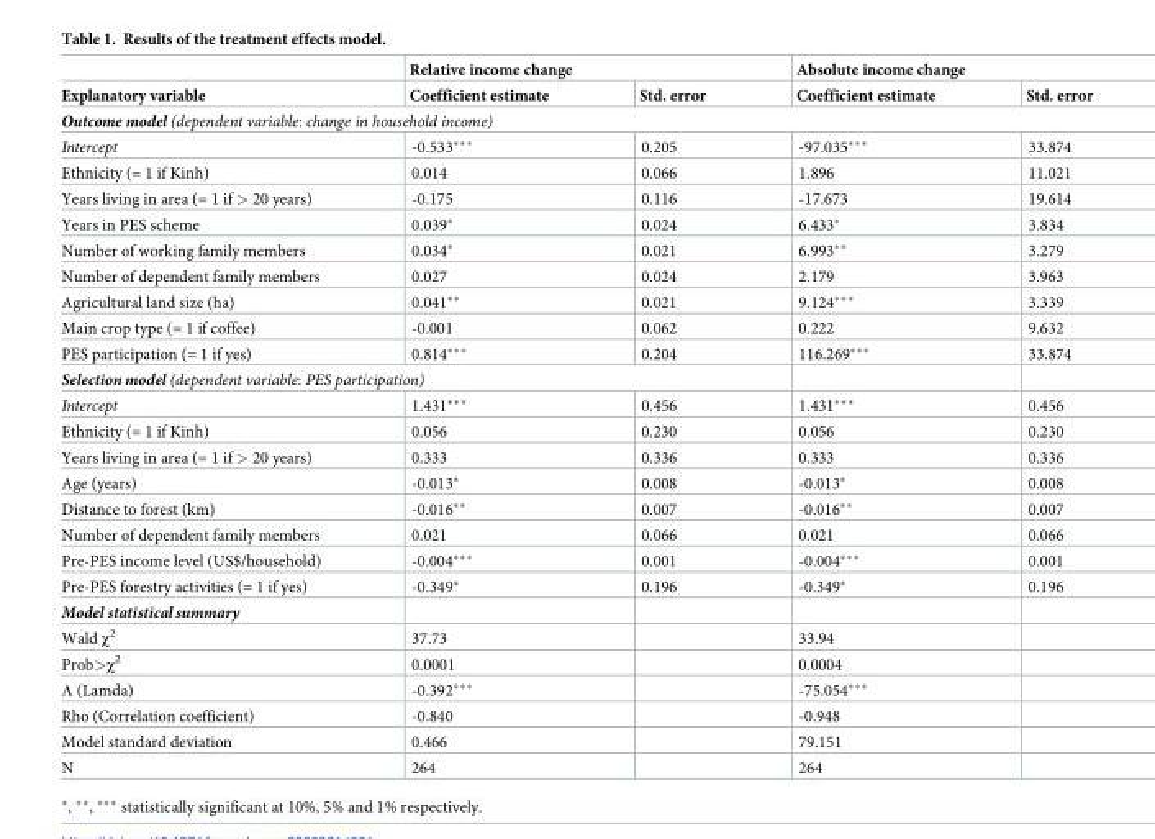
<table><thead><tr><td rowspan="2">Explanatory variable</td><td colspan="2">Relative income change</td><td colspan="2">Absolute income change</td></tr><tr><td>Coefficient estimate</td><td>Std. error</td><td>Coefficient estimate</td><td>Std. error</td></tr></thead><tbody><tr><td colspan="5">Outcome model (dependent variable: change in household income)</td></tr><tr><td>Intercept</td><td>-0.533***</td><td>0.205</td><td>-97.035***</td><td>33.874</td></tr><tr><td>Ethnicity (= 1 if Kinh)</td><td>0.014</td><td>0.066</td><td>1.896</td><td>11.021</td></tr><tr><td>Years living in area (= 1 if &gt; 20 years)</td><td>-0.175</td><td>0.116</td><td>-17.673</td><td>19.614</td></tr><tr><td>Years in PES scheme</td><td>0.039*</td><td>0.024</td><td>6.433*</td><td>3.834</td></tr><tr><td>Number of working family members</td><td>0.034*</td><td>0.021</td><td>6.993**</td><td>3.279</td></tr><tr><td>Number of dependent family members</td><td>0.027</td><td>0.024</td><td>2.179</td><td>3.963</td></tr><tr><td>Agricultural land size (ha)</td><td>0.041**</td><td>0.021</td><td>9.124***</td><td>3.339</td></tr><tr><td>Main crop type (= 1 if coffee)</td><td>-0.001</td><td>0.062</td><td>0.222</td><td>9.632</td></tr><tr><td>PES participation (= 1 if yes)</td><td>0.814***</td><td>0.204</td><td>116.269***</td><td>33.874</td></tr><tr><td colspan="5">Selection model (dependent variable: PES participation)</td></tr><tr><td>Intercept</td><td>1.431***</td><td>0.456</td><td>1.431***</td><td>0.456</td></tr><tr><td>Ethnicity (= 1 if Kinh)</td><td>0.056</td><td>0.230</td><td>0.056</td><td>0.230</td></tr><tr><td>Years living in area (= 1 if &gt; 20 years)</td><td>0.333</td><td>0.336</td><td>0.333</td><td>0.336</td></tr><tr><td>Age (years)</td><td>-0.013*</td><td>0.008</td><td>-0.013*</td><td>0.008</td></tr><tr><td>Distance to forest (km)</td><td>-0.016**</td><td>0.007</td><td>-0.016**</td><td>0.007</td></tr><tr><td>Number of dependent family members</td><td>0.021</td><td>0.066</td><td>0.021</td><td>0.066</td></tr><tr><td>Pre-PES income level (US$/household)</td><td>-0.004***</td><td>0.001</td><td>-0.004***</td><td>0.001</td></tr><tr><td>Pre-PES forestry activities (= 1 if yes)</td><td>-0.349*</td><td>0.196</td><td>-0.349*</td><td>0.196</td></tr><tr><td colspan="5">Model statistical summary</td></tr><tr><td>Wald χ<sup>2</sup></td><td>37.73</td><td></td><td>33.94</td><td></td></tr><tr><td>Prob&gt;χ<sup>2</sup></td><td>0.0001</td><td></td><td>0.0004</td><td></td></tr><tr><td>Λ (Lamda)</td><td>-0.392***</td><td></td><td>-75.054***</td><td></td></tr><tr><td>Rho (Correlation coefficient)</td><td>-0.840</td><td></td><td>-0.948</td><td></td></tr><tr><td>Model standard deviation</td><td>0.466</td><td></td><td>79.151</td><td></td></tr><tr><td>N</td><td>264</td><td></td><td>264</td><td></td></tr></tbody></table>